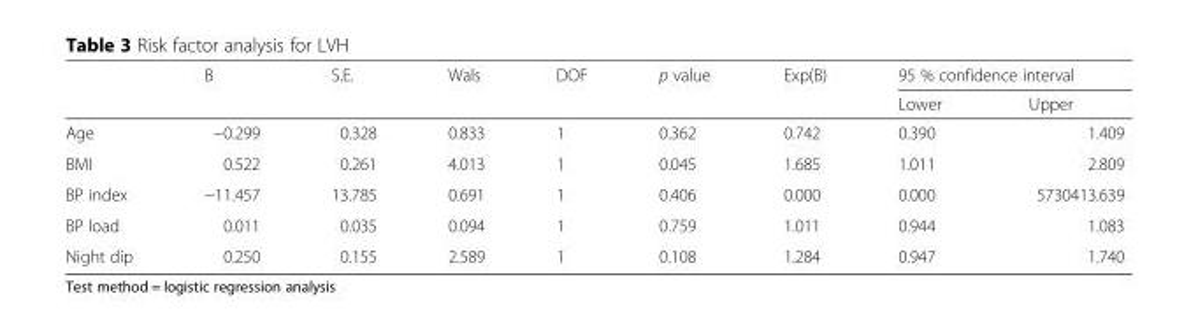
<table><thead><tr><td rowspan="2"></td><td rowspan="2">B</td><td rowspan="2">S.E.</td><td rowspan="2">Wals</td><td rowspan="2">DOF</td><td rowspan="2">p value</td><td rowspan="2">Exp(B)</td><td colspan="2">95 % confidence interval</td></tr><tr><td>Lower</td><td>Upper</td></tr></thead><tbody><tr><td>Age</td><td>−0.299</td><td>0.328</td><td>0.833</td><td>1</td><td>0.362</td><td>0.742</td><td>0.390</td><td>1.409</td></tr><tr><td>BMI</td><td>0.522</td><td>0.261</td><td>4.013</td><td>1</td><td>0.045</td><td>1.685</td><td>1.011</td><td>2.809</td></tr><tr><td>BP index</td><td>−11.457</td><td>13.785</td><td>0.691</td><td>1</td><td>0.406</td><td>0.000</td><td>0.000</td><td>5730413.639</td></tr><tr><td>BP load</td><td>0.011</td><td>0.035</td><td>0.094</td><td>1</td><td>0.759</td><td>1.011</td><td>0.944</td><td>1.083</td></tr><tr><td>Night dip</td><td>0.250</td><td>0.155</td><td>2.589</td><td>1</td><td>0.108</td><td>1.284</td><td>0.947</td><td>1.740</td></tr></tbody></table>